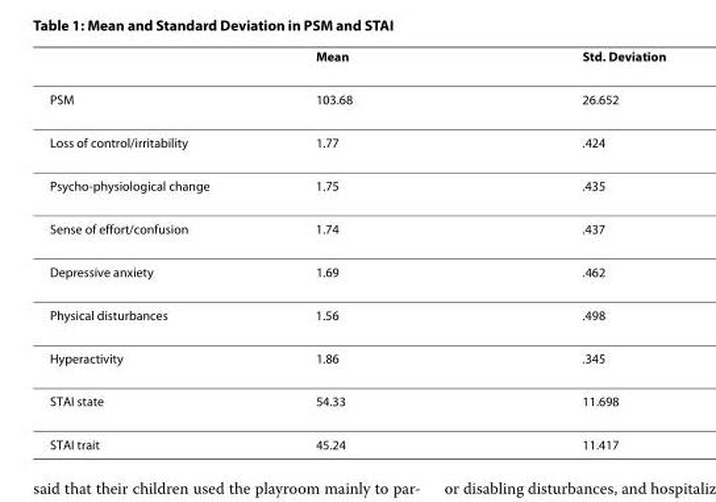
<table><thead><tr><td></td><td>Mean</td><td>Std. Deviation</td></tr></thead><tbody><tr><td>PSM</td><td>103.68</td><td>26.652</td></tr><tr><td>Loss of control/irritability</td><td>1.77</td><td>.424</td></tr><tr><td>Psycho-physiological change</td><td>1.75</td><td>.435</td></tr><tr><td>Sense of effort/confusion</td><td>1.74</td><td>.437</td></tr><tr><td>Depressive anxiety</td><td>1.69</td><td>.462</td></tr><tr><td>Physical disturbances</td><td>1.56</td><td>.498</td></tr><tr><td>Hyperactivity</td><td>1.86</td><td>.345</td></tr><tr><td>STAI state</td><td>54.33</td><td>11.698</td></tr><tr><td>STAI trait</td><td>45.24</td><td>11.417</td></tr></tbody></table>